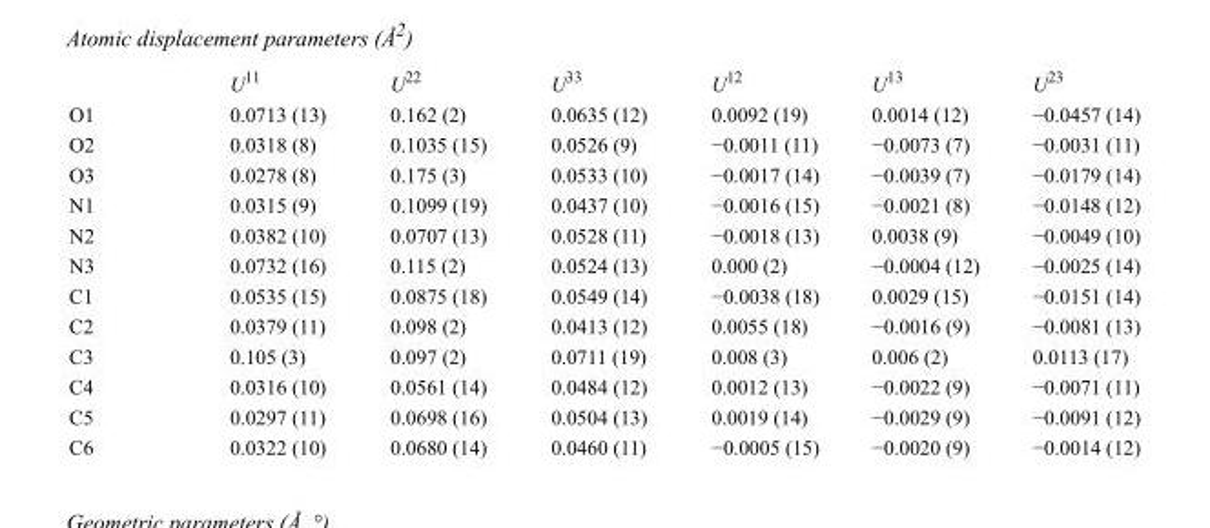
<table><thead><tr><td></td><td>U<sup>11</sup></td><td>U<sup>22</sup></td><td>U<sup>33</sup></td><td>U<sup>12</sup></td><td>U<sup>13</sup></td><td>U<sup>23</sup></td></tr></thead><tbody><tr><td>O1</td><td>0.0713 (13)</td><td>0.162 (2)</td><td>0.0635 (12)</td><td>0.0092 (19)</td><td>0.0014 (12)</td><td>−0.0457 (14)</td></tr><tr><td>O2</td><td>0.0318 (8)</td><td>0.1035 (15)</td><td>0.0526 (9)</td><td>−0.0011 (11)</td><td>−0.0073 (7)</td><td>−0.0031 (11)</td></tr><tr><td>O3</td><td>0.0278 (8)</td><td>0.175 (3)</td><td>0.0533 (10)</td><td>−0.0017 (14)</td><td>−0.0039 (7)</td><td>−0.0179 (14)</td></tr><tr><td>N1</td><td>0.0315 (9)</td><td>0.1099 (19)</td><td>0.0437 (10)</td><td>−0.0016 (15)</td><td>−0.0021 (8)</td><td>−0.0148 (12)</td></tr><tr><td>N2</td><td>0.0382 (10)</td><td>0.0707 (13)</td><td>0.0528 (11)</td><td>−0.0018 (13)</td><td>0.0038 (9)</td><td>−0.0049 (10)</td></tr><tr><td>N3</td><td>0.0732 (16)</td><td>0.115 (2)</td><td>0.0524 (13)</td><td>0.000 (2)</td><td>−0.0004 (12)</td><td>−0.0025 (14)</td></tr><tr><td>C1</td><td>0.0535 (15)</td><td>0.0875 (18)</td><td>0.0549 (14)</td><td>−0.0038 (18)</td><td>0.0029 (15)</td><td>−0.0151 (14)</td></tr><tr><td>C2</td><td>0.0379 (11)</td><td>0.098 (2)</td><td>0.0413 (12)</td><td>0.0055 (18)</td><td>−0.0016 (9)</td><td>−0.0081 (13)</td></tr><tr><td>C3</td><td>0.105 (3)</td><td>0.097 (2)</td><td>0.0711 (19)</td><td>0.008 (3)</td><td>0.006 (2)</td><td>0.0113 (17)</td></tr><tr><td>C4</td><td>0.0316 (10)</td><td>0.0561 (14)</td><td>0.0484 (12)</td><td>0.0012 (13)</td><td>−0.0022 (9)</td><td>−0.0071 (11)</td></tr><tr><td>C5</td><td>0.0297 (11)</td><td>0.0698 (16)</td><td>0.0504 (13)</td><td>0.0019 (14)</td><td>−0.0029 (9)</td><td>−0.0091 (12)</td></tr><tr><td>C6</td><td>0.0322 (10)</td><td>0.0680 (14)</td><td>0.0460 (11)</td><td>−0.0005 (15)</td><td>−0.0020 (9)</td><td>−0.0014 (12)</td></tr></tbody></table>